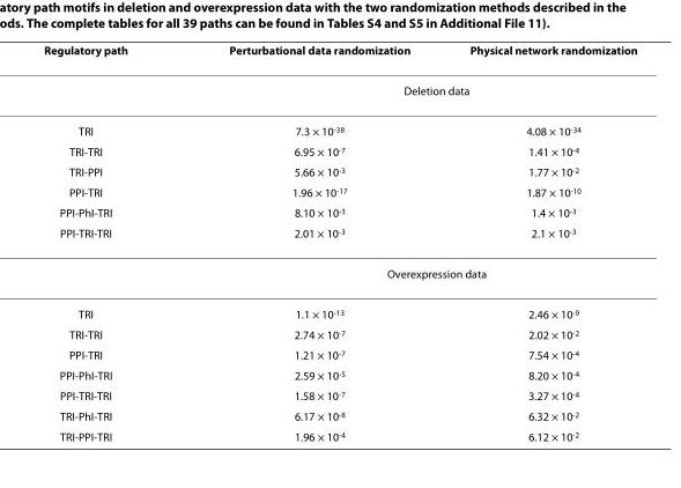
<table><thead><tr><td>Regulatory path</td><td>Perturbational data randomization</td><td>Physical network randomization</td></tr></thead><tbody><tr><td></td><td colspan="2">Deletion data</td></tr><tr><td>TRI</td><td>7.3 × 10<sup>-38</sup></td><td>4.08 × 10<sup>-34</sup></td></tr><tr><td>TRI-TRI</td><td>6.95 × 10<sup>-7</sup></td><td>1.41 × 10<sup>-4</sup></td></tr><tr><td>TRI-PPI</td><td>5.66 × 10<sup>-3</sup></td><td>1.77 × 10<sup>-2</sup></td></tr><tr><td>PPI-TRI</td><td>1.96 × 10<sup>-17</sup></td><td>1.87 × 10<sup>-10</sup></td></tr><tr><td>PPI-PhI-TRI</td><td>8.10 × 10<sup>-3</sup></td><td>1.4 × 10<sup>-3</sup></td></tr><tr><td rowspan="2">PPI-TRI-TRI</td><td>2.01 × 10<sup>-3</sup></td><td>2.1 × 10<sup>-3</sup></td></tr><tr><td colspan="2">Overexpression data</td></tr><tr><td>TRI</td><td>1.1 × 10<sup>-13</sup></td><td>2.46 × 10<sup>-9</sup></td></tr><tr><td>TRI-TRI</td><td>2.74 × 10<sup>-7</sup></td><td>2.02 × 10<sup>-2</sup></td></tr><tr><td>PPI-TRI</td><td>1.21 × 10<sup>-7</sup></td><td>7.54 × 10<sup>-4</sup></td></tr><tr><td>PPI-PhI-TRI</td><td>2.59 × 10<sup>-5</sup></td><td>8.20 × 10<sup>-4</sup></td></tr><tr><td>PPI-TRI-TRI</td><td>1.58 × 10<sup>-7</sup></td><td>3.27 × 10<sup>-4</sup></td></tr><tr><td>TRI-PhI-TRI</td><td>6.17 × 10<sup>-8</sup></td><td>6.32 × 10<sup>-2</sup></td></tr><tr><td>TRI-PPI-TRI</td><td>1.96 × 10<sup>-4</sup></td><td>6.12 × 10<sup>-2</sup></td></tr></tbody></table>